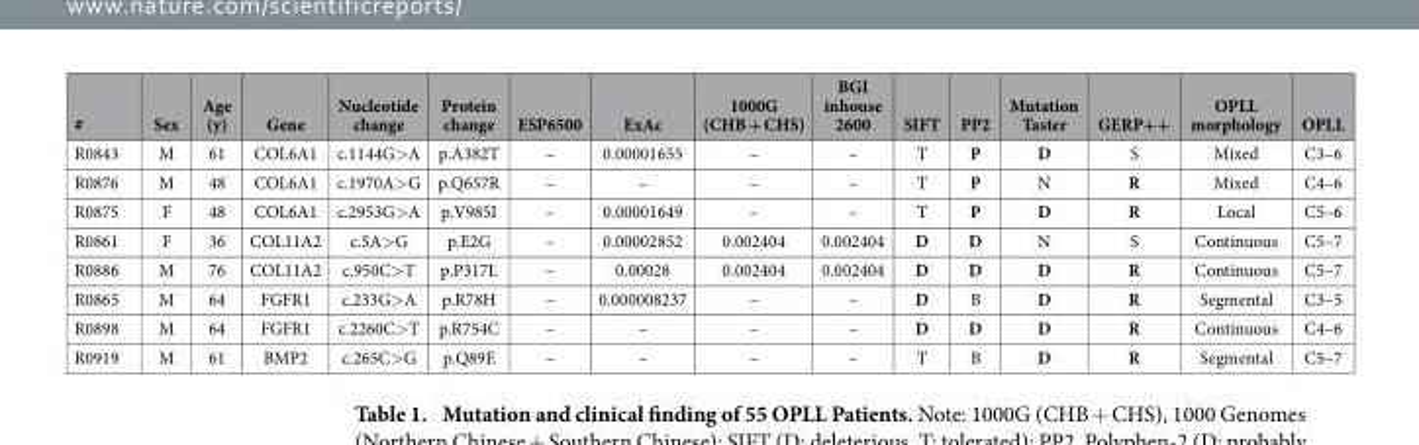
<table><thead><tr><td>#</td><td>Sex</td><td>Age (y)</td><td>Gene</td><td>Nucleotide change</td><td>Protein change</td><td>ESP6500</td><td>ExAc</td><td>1000G (CHB + CHS)</td><td>BGI inhouse 2600</td><td>SIFT</td><td>PP2</td><td>Mutation Taster</td><td>GERP++</td><td>OPLL morphology</td><td>OPLL</td></tr></thead><tbody><tr><td>R0843</td><td>M</td><td>61</td><td>COL6A1</td><td>c.1144G&gt;A</td><td>p.A382T</td><td>–</td><td>0.00001655</td><td>–</td><td>–</td><td>T</td><td>P</td><td>D</td><td>S</td><td>Mixed</td><td>C3–6</td></tr><tr><td>R0876</td><td>M</td><td>48</td><td>COL6A1</td><td>c.1970A&gt;G</td><td>p.Q657R</td><td>–</td><td>–</td><td>–</td><td>–</td><td>T</td><td>P</td><td>N</td><td>R</td><td>Mixed</td><td>C4–6</td></tr><tr><td>R0875</td><td>F</td><td>48</td><td>COL6A1</td><td>c.2953G&gt;A</td><td>p.V985I</td><td>–</td><td>0.00001649</td><td>–</td><td>–</td><td>T</td><td>P</td><td>D</td><td>R</td><td>Local</td><td>C5–6</td></tr><tr><td>R0861</td><td>F</td><td>36</td><td>COL11A2</td><td>c.5A&gt;G</td><td>p.E2G</td><td>–</td><td>0.00002852</td><td>0.002404</td><td>0.002404</td><td>D</td><td>D</td><td>N</td><td>S</td><td>Continuous</td><td>C5–7</td></tr><tr><td>R0886</td><td>M</td><td>76</td><td>COL11A2</td><td>c.950C&gt;T</td><td>p.P317L</td><td>–</td><td>0.00028</td><td>0.002404</td><td>0.002404</td><td>D</td><td>D</td><td>D</td><td>R</td><td>Continuous</td><td>C5–7</td></tr><tr><td>R0865</td><td>M</td><td>64</td><td>FGFR1</td><td>c.233G&gt;A</td><td>p.R78H</td><td>–</td><td>0.000008237</td><td>–</td><td>–</td><td>D</td><td>B</td><td>D</td><td>R</td><td>Segmental</td><td>C3–5</td></tr><tr><td>R0898</td><td>M</td><td>64</td><td>FGFR1</td><td>c.2260C&gt;T</td><td>p.R754C</td><td>–</td><td>–</td><td>–</td><td>–</td><td>D</td><td>D</td><td>D</td><td>R</td><td>Continuous</td><td>C4–6</td></tr><tr><td>R0919</td><td>M</td><td>61</td><td>BMP2</td><td>c.265C&gt;G</td><td>p.Q89E</td><td>–</td><td>–</td><td>–</td><td>–</td><td>T</td><td>B</td><td>D</td><td>R</td><td>Segmental</td><td>C5–7</td></tr></tbody></table>